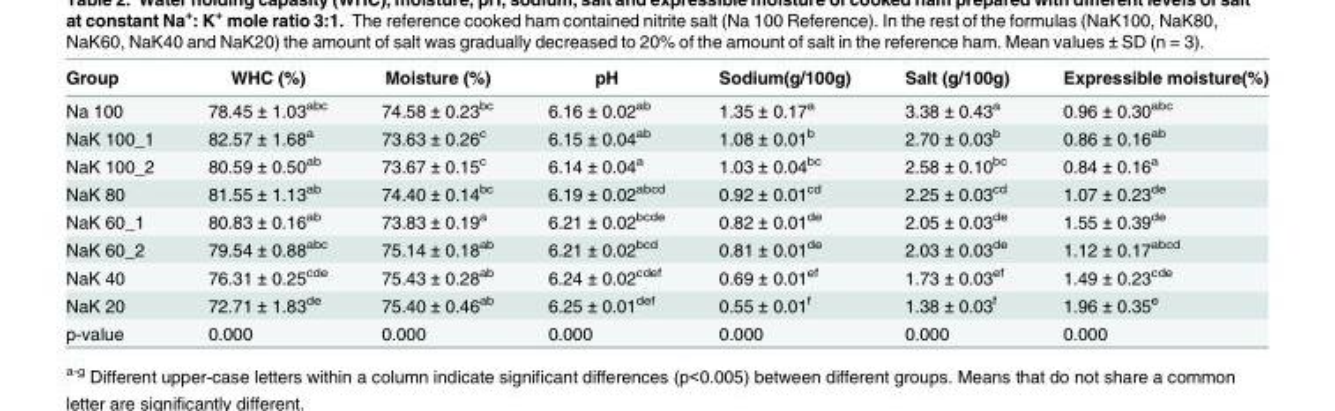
<table><thead><tr><td>Group</td><td>WHC (%)</td><td>Moisture (%)</td><td>pH</td><td>Sodium(g/100g)</td><td>Salt (g/100g)</td><td>Expressible moisture(%)</td></tr></thead><tbody><tr><td>Na 100</td><td>78.45 ± 1.03<sup>abc</sup></td><td>74.58 ± 0.23<sup>bc</sup></td><td>6.16 ± 0.02<sup>ab</sup></td><td>1.35 ± 0.17<sup>a</sup></td><td>3.38 ± 0.43<sup>a</sup></td><td>0.96 ± 0.30<sup>abc</sup></td></tr><tr><td>NaK 100_1</td><td>82.57 ± 1.68<sup>a</sup></td><td>73.63 ± 0.26<sup>c</sup></td><td>6.15 ± 0.04<sup>ab</sup></td><td>1.08 ± 0.01<sup>b</sup></td><td>2.70 ± 0.03<sup>b</sup></td><td>0.86 ± 0.16<sup>ab</sup></td></tr><tr><td>NaK 100_2</td><td>80.59 ± 0.50<sup>ab</sup></td><td>73.67 ± 0.15<sup>c</sup></td><td>6.14 ± 0.04<sup>a</sup></td><td>1.03 ± 0.04<sup>bc</sup></td><td>2.58 ± 0.10<sup>bc</sup></td><td>0.84 ± 0.16<sup>a</sup></td></tr><tr><td>NaK 80</td><td>81.55 ± 1.13<sup>ab</sup></td><td>74.40 ± 0.14<sup>bc</sup></td><td>6.19 ± 0.02<sup>abcd</sup></td><td>0.92 ± 0.01<sup>cd</sup></td><td>2.25 ± 0.03<sup>cd</sup></td><td>1.07 ± 0.23<sup>de</sup></td></tr><tr><td>NaK 60_1</td><td>80.83 ± 0.16<sup>ab</sup></td><td>73.83 ± 0.19<sup>a</sup></td><td>6.21 ± 0.02<sup>bcde</sup></td><td>0.82 ± 0.01<sup>de</sup></td><td>2.05 ± 0.03<sup>de</sup></td><td>1.55 ± 0.39<sup>de</sup></td></tr><tr><td>NaK 60_2</td><td>79.54 ± 0.88<sup>abc</sup></td><td>75.14 ± 0.18<sup>ab</sup></td><td>6.21 ± 0.02<sup>bcd</sup></td><td>0.81 ± 0.01<sup>de</sup></td><td>2.03 ± 0.03<sup>de</sup></td><td>1.12 ± 0.17<sup>abcd</sup></td></tr><tr><td>NaK 40</td><td>76.31 ± 0.25<sup>cde</sup></td><td>75.43 ± 0.28<sup>ab</sup></td><td>6.24 ± 0.02<sup>cdef</sup></td><td>0.69 ± 0.01<sup>ef</sup></td><td>1.73 ± 0.03<sup>ef</sup></td><td>1.49 ± 0.23<sup>cde</sup></td></tr><tr><td>NaK 20</td><td>72.71 ± 1.83<sup>de</sup></td><td>75.40 ± 0.46<sup>ab</sup></td><td>6.25 ± 0.01<sup>def</sup></td><td>0.55 ± 0.01<sup>f</sup></td><td>1.38 ± 0.03<sup>f</sup></td><td>1.96 ± 0.35<sup>e</sup></td></tr><tr><td>p-value</td><td>0.000</td><td>0.000</td><td>0.000</td><td>0.000</td><td>0.000</td><td>0.000</td></tr></tbody></table>